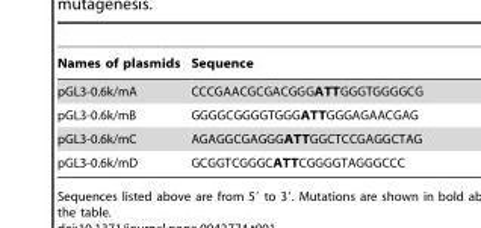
<table><thead><tr><td>Names of plasmids</td><td>Sequence</td></tr></thead><tbody><tr><td>pGL3-0.6k/mA</td><td>CCCGAACGCGACGGGATTGGGTGGGGCG</td></tr><tr><td>pGL3-0.6k/mB</td><td>GGGGCGGGGTGGGATTGGGAGAACGAG</td></tr><tr><td>pGL3-0.6k/mC</td><td>AGAGGCGAGGGATTGGCTCCGAGGCTAG</td></tr><tr><td>pGL3-0.6k/mD</td><td>GCGGTCGGGCATTCGGGGTAGGGCCC</td></tr></tbody></table>